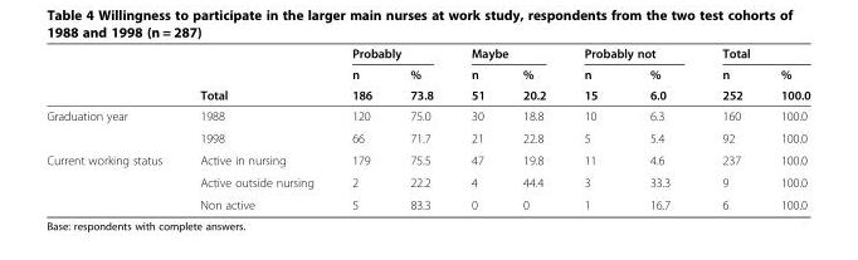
<table><thead><tr><td rowspan="3"></td><td rowspan="3">Total</td><td colspan="2">Probably</td><td colspan="2">Maybe</td><td colspan="2">Probably not</td><td colspan="2">Total</td></tr><tr><td rowspan="2">n 186</td><td rowspan="2">% 73.8</td><td rowspan="2">n 51</td><td rowspan="2">% 20.2</td><td rowspan="2">n 15</td><td rowspan="2">% 6.0</td><td rowspan="2">n 252</td><td rowspan="2">% 100.0</td></tr><tr></tr></thead><tbody><tr><td rowspan="2">Graduation year</td><td>1988</td><td>120</td><td>75.0</td><td>30</td><td>18.8</td><td>10</td><td>6.3</td><td>160</td><td>100.0</td></tr><tr><td>1998</td><td>66</td><td>71.7</td><td>21</td><td>22.8</td><td>5</td><td>5.4</td><td>92</td><td>100.0</td></tr><tr><td rowspan="3">Current working status</td><td>Active in nursing</td><td>179</td><td>75.5</td><td>47</td><td>19.8</td><td>11</td><td>4.6</td><td>237</td><td>100.0</td></tr><tr><td>Active outside nursing</td><td>2</td><td>22.2</td><td>4</td><td>44.4</td><td>3</td><td>33.3</td><td>9</td><td>100.0</td></tr><tr><td>Non active</td><td>5</td><td>83.3</td><td>0</td><td>0</td><td>1</td><td>16.7</td><td>6</td><td>100.0</td></tr></tbody></table>